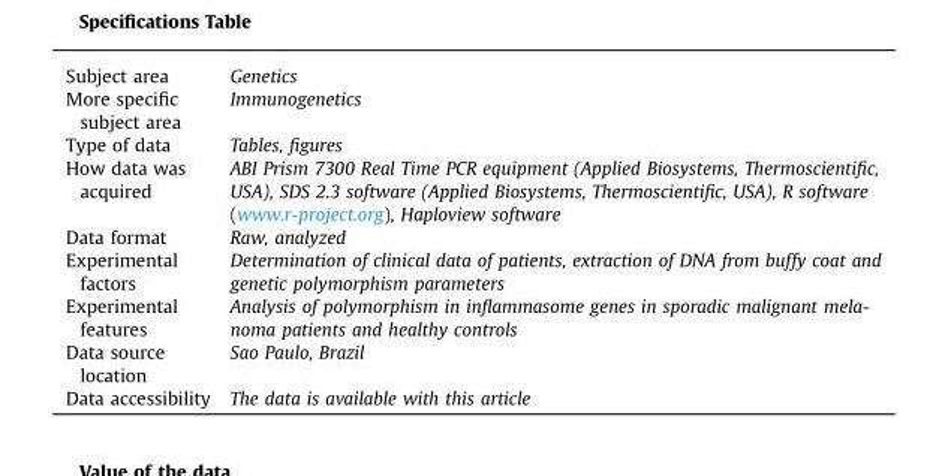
<table><tbody><tr><td>Subject area</td><td>Genetics</td></tr><tr><td>More specific subject area</td><td>Immunogenetics</td></tr><tr><td>Type of data</td><td>Tables, figures</td></tr><tr><td>How data was acquired</td><td>ABI Prism 7300 Real Time PCR equipment (Applied Biosystems, Thermoscientific, USA), SDS 2.3 software (Applied Biosystems, Thermoscientific, USA), R software (www.r-project.org), Haploview software</td></tr><tr><td>Data format</td><td>Raw, analyzed</td></tr><tr><td>Experimental factors</td><td>Determination of clinical data of patients, extraction of DNA from buffy coat and genetic polymorphism parameters</td></tr><tr><td>Experimental features</td><td>Analysis of polymorphism in inflammasome genes in sporadic malignant mela- noma patients and healthy controls</td></tr><tr><td>Data source location</td><td>Sao Paulo, Brazil</td></tr><tr><td>Data accessibility</td><td>The data is available with this article</td></tr></tbody></table>